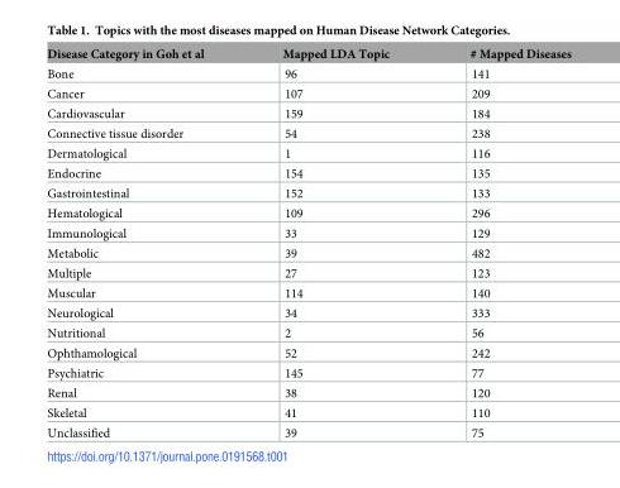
<table><thead><tr><td>Disease Category in Goh et al</td><td>Mapped LDA Topic</td><td># Mapped Diseases</td></tr></thead><tbody><tr><td>Bone</td><td>96</td><td>141</td></tr><tr><td>Cancer</td><td>107</td><td>209</td></tr><tr><td>Cardiovascular</td><td>159</td><td>184</td></tr><tr><td>Connective tissue disorder</td><td>54</td><td>238</td></tr><tr><td>Dermatological</td><td>1</td><td>116</td></tr><tr><td>Endocrine</td><td>154</td><td>135</td></tr><tr><td>Gastrointestinal</td><td>152</td><td>133</td></tr><tr><td>Hematological</td><td>109</td><td>296</td></tr><tr><td>Immunological</td><td>33</td><td>129</td></tr><tr><td>Metabolic</td><td>39</td><td>482</td></tr><tr><td>Multiple</td><td>27</td><td>123</td></tr><tr><td>Muscular</td><td>114</td><td>140</td></tr><tr><td>Neurological</td><td>34</td><td>333</td></tr><tr><td>Nutritional</td><td>2</td><td>56</td></tr><tr><td>Ophthamological</td><td>52</td><td>242</td></tr><tr><td>Psychiatric</td><td>145</td><td>77</td></tr><tr><td>Renal</td><td>38</td><td>120</td></tr><tr><td>Skeletal</td><td>41</td><td>110</td></tr><tr><td>Unclassified</td><td>39</td><td>75</td></tr></tbody></table>